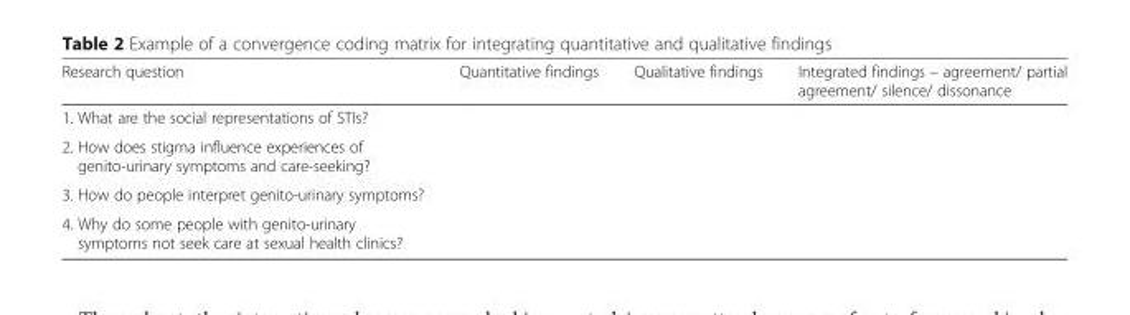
<table><thead><tr><td>Research question</td><td>Quantitative findings</td><td>Qualitative findings</td><td>Integrated findings – agreement/ partial agreement/ silence/ dissonance</td></tr></thead><tbody><tr><td colspan="4">1. What are the social representations of STIs?</td></tr><tr><td colspan="4">2. How does stigma influence experiences of genito-urinary symptoms and care-seeking?</td></tr><tr><td colspan="4">3. How do people interpret genito-urinary symptoms?</td></tr><tr><td>4. Why do some people with genito-urinary symptoms not seek care at sexual health clinics?</td><td></td><td></td><td></td></tr></tbody></table>